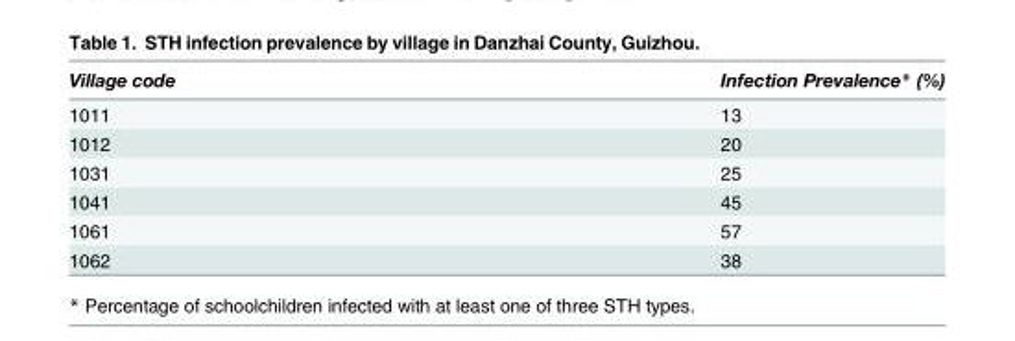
<table><thead><tr><td>Village code</td><td>Infection Prevalence* (%)</td></tr></thead><tbody><tr><td>1011</td><td>13</td></tr><tr><td>1012</td><td>20</td></tr><tr><td>1031</td><td>25</td></tr><tr><td>1041</td><td>45</td></tr><tr><td>1061</td><td>57</td></tr><tr><td>1062</td><td>38</td></tr></tbody></table>